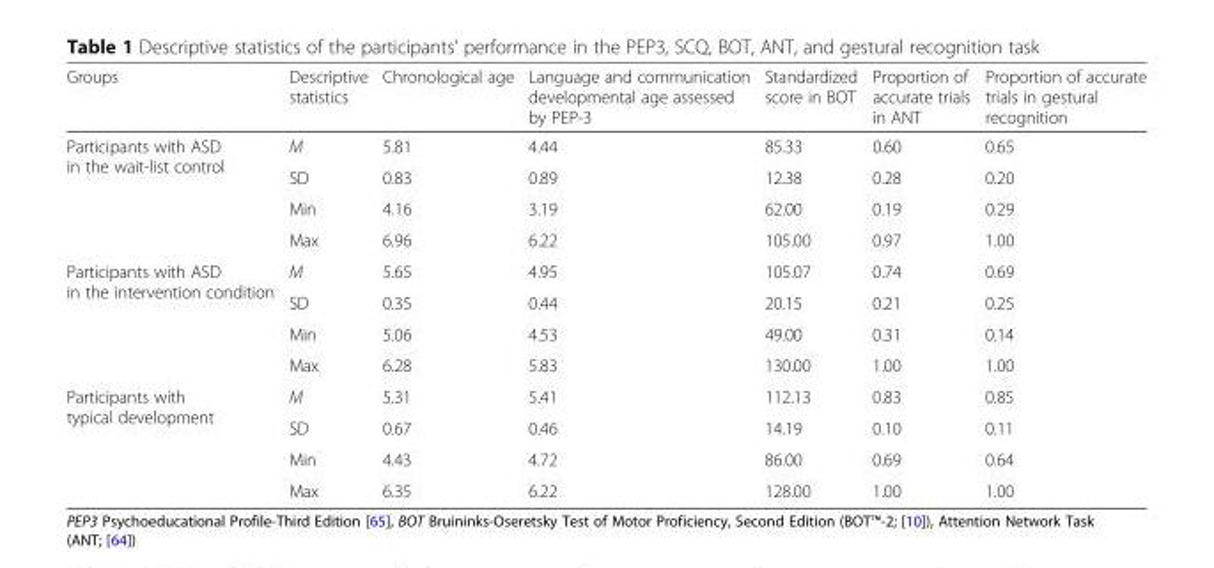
<table><thead><tr><td>Groups</td><td>Descriptive statistics</td><td>Chronological age</td><td>Language and communication developmental age assessed by PEP-3</td><td>Standardized score in BOT</td><td>Proportion of accurate trials in ANT</td><td>Proportion of accurate trials in gestural recognition</td></tr></thead><tbody><tr><td rowspan="4">Participants with ASD in the wait-list control</td><td>M</td><td>5.81</td><td>4.44</td><td>85.33</td><td>0.60</td><td>0.65</td></tr><tr><td>SD</td><td>0.83</td><td>0.89</td><td>12.38</td><td>0.28</td><td>0.20</td></tr><tr><td>Min</td><td>4.16</td><td>3.19</td><td>62.00</td><td>0.19</td><td>0.29</td></tr><tr><td>Max</td><td>6.96</td><td>6.22</td><td>105.00</td><td>0.97</td><td>1.00</td></tr><tr><td rowspan="4">Participants with ASD in the intervention condition</td><td>M</td><td>5.65</td><td>4.95</td><td>105.07</td><td>0.74</td><td>0.69</td></tr><tr><td>SD</td><td>0.35</td><td>0.44</td><td>20.15</td><td>0.21</td><td>0.25</td></tr><tr><td>Min</td><td>5.06</td><td>4.53</td><td>49.00</td><td>0.31</td><td>0.14</td></tr><tr><td>Max</td><td>6.28</td><td>5.83</td><td>130.00</td><td>1.00</td><td>1.00</td></tr><tr><td rowspan="4">Participants with typical development</td><td>M</td><td>5.31</td><td>5.41</td><td>112.13</td><td>0.83</td><td>0.85</td></tr><tr><td>SD</td><td>0.67</td><td>0.46</td><td>14.19</td><td>0.10</td><td>0.11</td></tr><tr><td>Min</td><td>4.43</td><td>4.72</td><td>86.00</td><td>0.69</td><td>0.64</td></tr><tr><td>Max</td><td>6.35</td><td>6.22</td><td>128.00</td><td>1.00</td><td>1.00</td></tr></tbody></table>